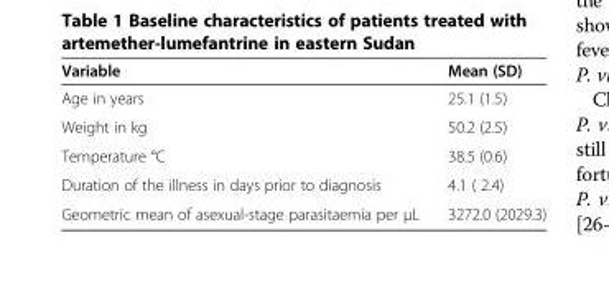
<table><thead><tr><td>Variable</td><td>Mean (SD)</td></tr></thead><tbody><tr><td>Age in years</td><td>25.1 (1.5)</td></tr><tr><td>Weight in kg</td><td>50.2 (2.5)</td></tr><tr><td>Temperature °C</td><td>38.5 (0.6)</td></tr><tr><td>Duration of the illness in days prior to diagnosis</td><td>4.1 ( 2.4)</td></tr><tr><td>Geometric mean of asexual-stage parasitaemia per μL</td><td>3272.0 (2029.3)</td></tr></tbody></table>